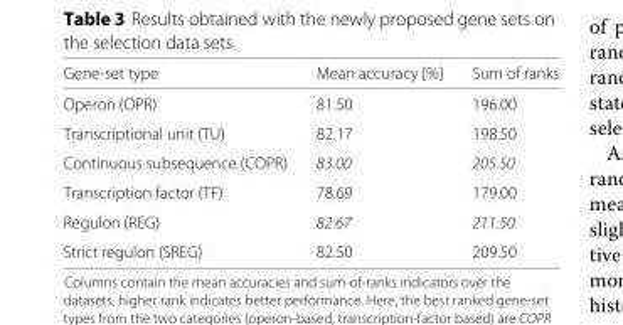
<table><thead><tr><td>Gene-set type</td><td>Mean accuracy [%]</td><td>Sum of ranks</td></tr></thead><tbody><tr><td>Operon (OPR)</td><td>81.50</td><td>196.00</td></tr><tr><td>Transcriptional unit (TU)</td><td>82.17</td><td>198.50</td></tr><tr><td>Continuous subsequence (COPR)</td><td>83.00</td><td>205.50</td></tr><tr><td>Transcription factor (TF)</td><td>78.69</td><td>179.00</td></tr><tr><td>Regulon (REG)</td><td>82.67</td><td>211.50</td></tr><tr><td>Strict regulon (SREG)</td><td>82.50</td><td>209.50</td></tr></tbody></table>